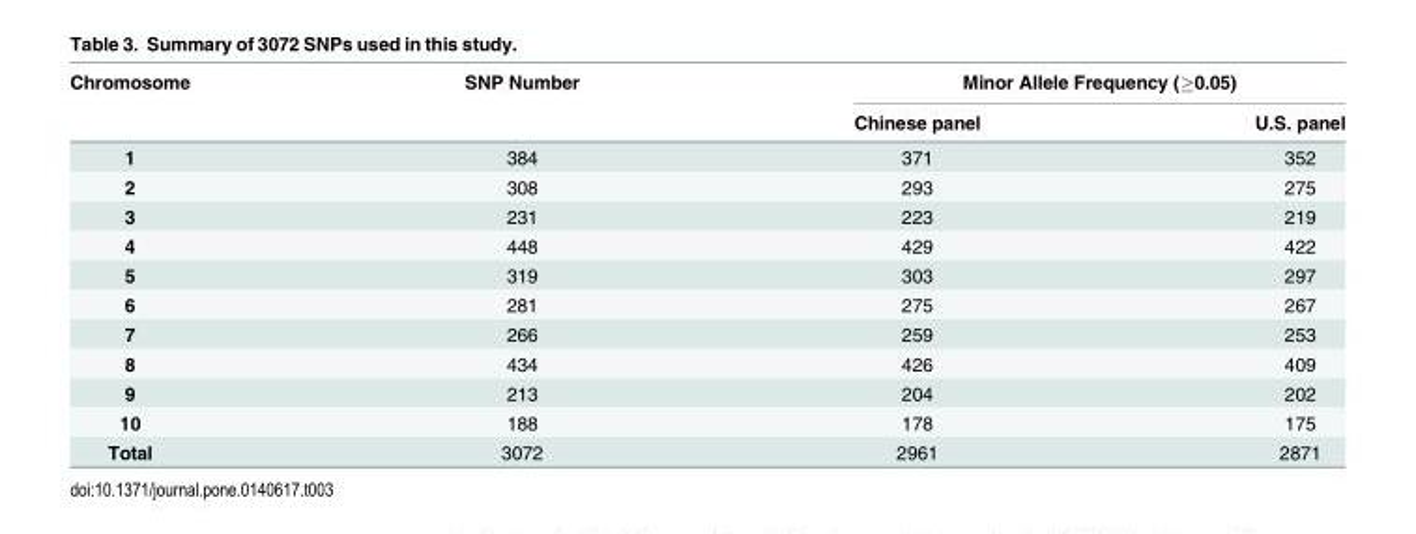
<table><thead><tr><td rowspan="2">Chromosome</td><td rowspan="2">SNP Number</td><td colspan="2">Minor Allele Frequency (≥0.05)</td></tr><tr><td>Chinese panel</td><td>U.S. panel</td></tr></thead><tbody><tr><td>1</td><td>384</td><td>371</td><td>352</td></tr><tr><td>2</td><td>308</td><td>293</td><td>275</td></tr><tr><td>3</td><td>231</td><td>223</td><td>219</td></tr><tr><td>4</td><td>448</td><td>429</td><td>422</td></tr><tr><td>5</td><td>319</td><td>303</td><td>297</td></tr><tr><td>6</td><td>281</td><td>275</td><td>267</td></tr><tr><td>7</td><td>266</td><td>259</td><td>253</td></tr><tr><td>8</td><td>434</td><td>426</td><td>409</td></tr><tr><td>9</td><td>213</td><td>204</td><td>202</td></tr><tr><td>10</td><td>188</td><td>178</td><td>175</td></tr><tr><td>Total</td><td>3072</td><td>2961</td><td>2871</td></tr></tbody></table>